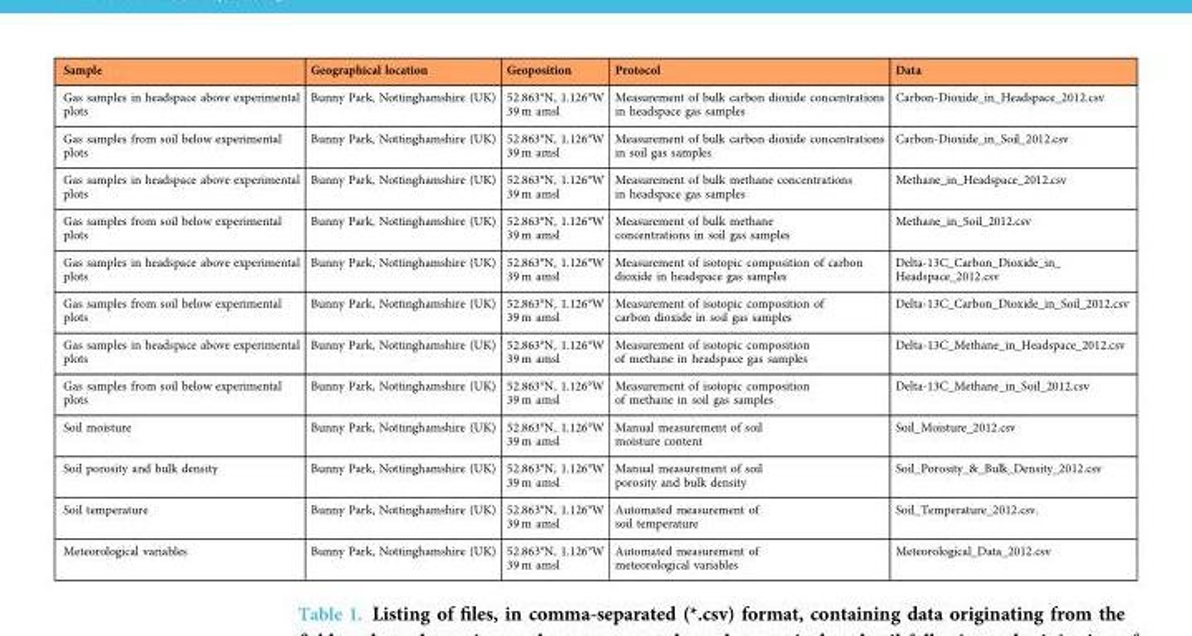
<table><thead><tr><td>Sample</td><td>Geographical location</td><td>Geoposition</td><td>Protocol</td><td>Data</td></tr></thead><tbody><tr><td>Gas samples in headspace above experimental plots</td><td>Bunny Park, Nottinghamshire (UK)</td><td>52.863°N, 1.126°W 39 m amsl</td><td>Measurement of bulk carbon dioxide concentrations in headspace gas samples</td><td>Carbon-Dioxide_in_Headspace_2012.csv</td></tr><tr><td>Gas samples from soil below experimental plots</td><td>Bunny Park, Nottinghamshire (UK)</td><td>52.863°N, 1.126°W 39 m amsl</td><td>Measurement of bulk carbon dioxide concentrations in soil gas samples</td><td>Carbon-Dioxide_in_Soil_2012.csv</td></tr><tr><td>Gas samples in headspace above experimental plots</td><td>Bunny Park, Nottinghamshire (UK)</td><td>52.863°N, 1.126°W 39 m amsl</td><td>Measurement of bulk methane concentrations in headspace gas samples</td><td>Methane_in_Headspace_2012.csv</td></tr><tr><td>Gas samples from soil below experimental plots</td><td>Bunny Park, Nottinghamshire (UK)</td><td>52.863°N, 1.126°W 39 m amsl</td><td>Measurement of bulk methane concentrations in soil gas samples</td><td>Methane_in_Soil_2012.csv</td></tr><tr><td>Gas samples in headspace above experimental plots</td><td>Bunny Park, Nottinghamshire (UK)</td><td>52.863°N, 1.126°W 39 m amsl</td><td>Measurement of isotopic composition of carbon dioxide in headspace gas samples</td><td>Delta-13C_Carbon_Dioxide_in_ Headspace_2012.csv</td></tr><tr><td>Gas samples from soil below experimental plots</td><td>Bunny Park, Nottinghamshire (UK)</td><td>52.863°N, 1.126°W 39 m amsl</td><td>Measurement of isotopic composition of carbon dioxide in soil gas samples</td><td>Delta-13C_Carbon_Dioxide_in_Soil_2012.csv</td></tr><tr><td>Gas samples in headspace above experimental plots</td><td>Bunny Park, Nottinghamshire (UK)</td><td>52.863°N, 1.126°W 39 m amsl</td><td>Measurement of isotopic composition of methane in headspace gas samples</td><td>Delta-13C_Methane_in_Headspace_2012.csv</td></tr><tr><td>Gas samples from soil below experimental plots</td><td>Bunny Park, Nottinghamshire (UK)</td><td>52.863°N, 1.126°W 39 m amsl</td><td>Measurement of isotopic composition of methane in soil gas samples</td><td>Delta-13C_Methane_in_Soil_2012.csv</td></tr><tr><td>Soil moisture</td><td>Bunny Park, Nottinghamshire (UK)</td><td>52.863°N, 1.126°W 39 m amsl</td><td>Manual measurement of soil moisture content</td><td>Soil_Moisture_2012.csv</td></tr><tr><td>Soil porosity and bulk density</td><td>Bunny Park, Nottinghamshire (UK)</td><td>52.863°N, 1.126°W 39 m amsl</td><td>Manual measurement of soil porosity and bulk density</td><td>Soil_Porosity_&amp;_Bulk_Density_2012.csv</td></tr><tr><td>Soil temperature</td><td>Bunny Park, Nottinghamshire (UK)</td><td>52.863°N, 1.126°W 39 m amsl</td><td>Automated measurement of soil temperature</td><td>Soil_Temperature_2012.csv.</td></tr><tr><td>Meteorological variables</td><td>Bunny Park, Nottinghamshire (UK)</td><td>52.863°N, 1.126°W 39 m amsl</td><td>Automated measurement of meteorological variables</td><td>Meteorological_Data_2012.csv</td></tr></tbody></table>